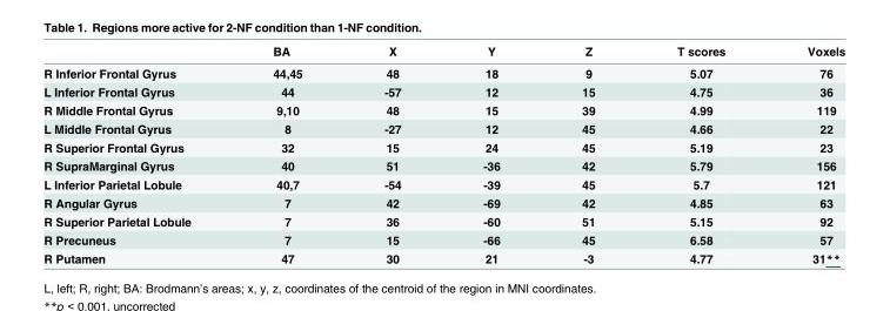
<table><thead><tr><td></td><td>BA</td><td>X</td><td>Y</td><td>Z</td><td>T scores</td><td>Voxels</td></tr></thead><tbody><tr><td>R Inferior Frontal Gyrus</td><td>44,45</td><td>48</td><td>18</td><td>9</td><td>5.07</td><td>76</td></tr><tr><td>L Inferior Frontal Gyrus</td><td>44</td><td>-57</td><td>12</td><td>15</td><td>4.75</td><td>36</td></tr><tr><td>R Middle Frontal Gyrus</td><td>9,10</td><td>48</td><td>15</td><td>39</td><td>4.99</td><td>119</td></tr><tr><td>L Middle Frontal Gyrus</td><td>8</td><td>-27</td><td>12</td><td>45</td><td>4.66</td><td>22</td></tr><tr><td>R Superior Frontal Gyrus</td><td>32</td><td>15</td><td>24</td><td>45</td><td>5.19</td><td>23</td></tr><tr><td>R SupraMarginal Gyrus</td><td>40</td><td>51</td><td>-36</td><td>42</td><td>5.79</td><td>156</td></tr><tr><td>L Inferior Parietal Lobule</td><td>40,7</td><td>-54</td><td>-39</td><td>45</td><td>5.7</td><td>121</td></tr><tr><td>R Angular Gyrus</td><td>7</td><td>42</td><td>-69</td><td>42</td><td>4.85</td><td>63</td></tr><tr><td>R Superior Parietal Lobule</td><td>7</td><td>36</td><td>-60</td><td>51</td><td>5.15</td><td>92</td></tr><tr><td>R Precuneus</td><td>7</td><td>15</td><td>-66</td><td>45</td><td>6.58</td><td>57</td></tr><tr><td>R Putamen</td><td>47</td><td>30</td><td>21</td><td>-3</td><td>4.77</td><td>31**</td></tr></tbody></table>